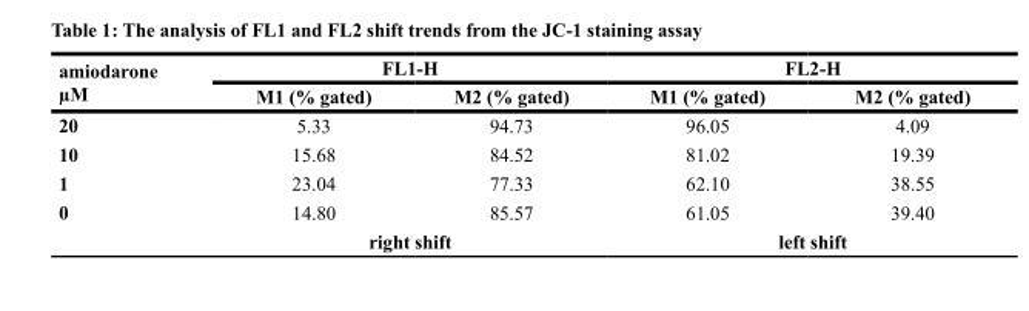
<table><thead><tr><td rowspan="2">amiodarone µM</td><td colspan="2">FL1-H</td><td colspan="2">FL2-H</td></tr><tr><td>M1 (% gated)</td><td>M2 (% gated)</td><td>M1 (% gated)</td><td>M2 (% gated)</td></tr></thead><tbody><tr><td>20</td><td>5.33</td><td>94.73</td><td>96.05</td><td>4.09</td></tr><tr><td>10</td><td>15.68</td><td>84.52</td><td>81.02</td><td>19.39</td></tr><tr><td>1</td><td>23.04</td><td>77.33</td><td>62.10</td><td>38.55</td></tr><tr><td rowspan="2">0</td><td>14.80</td><td>85.57</td><td>61.05</td><td>39.40</td></tr><tr><td colspan="2">right shift</td><td colspan="2">left shift</td></tr></tbody></table>